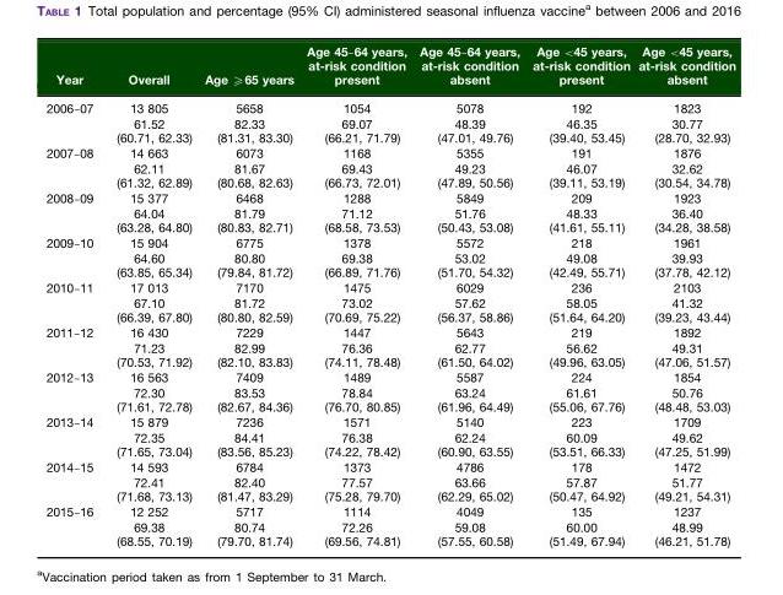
<table><thead><tr><td>Year</td><td>Overall</td><td>Age ≥65 years</td><td>Age 45–64 years, at-risk condition present</td><td>Age 45–64 years, at-risk condition absent</td><td>Age &lt;45 years, at-risk condition present</td><td>Age &lt;45 years, at-risk condition absent</td></tr></thead><tbody><tr><td rowspan="2">2006–07</td><td>13 805</td><td>5658</td><td>1054</td><td>5078</td><td>192</td><td>1823</td></tr><tr><td>61.52 (60.71, 62.33)</td><td>82.33 (81.31, 83.30)</td><td>69.07 (66.21, 71.79)</td><td>48.39 (47.01, 49.76)</td><td>46.35 (39.40, 53.45)</td><td>30.77 (28.70, 32.93)</td></tr><tr><td rowspan="2">2007–08</td><td>14 663</td><td>6073</td><td>1168</td><td>5355</td><td>191</td><td>1876</td></tr><tr><td>62.11 (61.32, 62.89)</td><td>81.67 (80.68, 82.63)</td><td>69.43 (66.73, 72.01)</td><td>49.23 (47.89, 50.56)</td><td>46.07 (39.11, 53.19)</td><td>32.62 (30.54, 34.78)</td></tr><tr><td rowspan="2">2008–09</td><td>15 377</td><td>6468</td><td>1288</td><td>5849</td><td>209</td><td>1923</td></tr><tr><td>64.04 (63.28, 64.80)</td><td>81.79 (80.83, 82.71)</td><td>71.12 (68.58, 73.53)</td><td>51.76 (50.43, 53.08)</td><td>48.33 (41.61, 55.11)</td><td>36.40 (34.28, 38.58)</td></tr><tr><td rowspan="2">2009–10</td><td>15 904</td><td>6775</td><td>1378</td><td>5572</td><td>218</td><td>1961</td></tr><tr><td>64.60 (63.85, 65.34)</td><td>80.80 (79.84, 81.72)</td><td>69.38 (66.89, 71.76)</td><td>53.02 (51.70, 54.32)</td><td>49.08 (42.49, 55.71)</td><td>39.93 (37.78, 42.12)</td></tr><tr><td rowspan="2">2010–11</td><td>17 013</td><td>7170</td><td>1475</td><td>6029</td><td>236</td><td>2103</td></tr><tr><td>67.10 (66.39, 67.80)</td><td>81.72 (80.80, 82.59)</td><td>73.02 (70.69, 75.22)</td><td>57.62 (56.37, 58.86)</td><td>58.05 (51.64, 64.20)</td><td>41.32 (39.23, 43.44)</td></tr><tr><td rowspan="2">2011–12</td><td>16 430</td><td>7229</td><td>1447</td><td>5643</td><td>219</td><td>1892</td></tr><tr><td>71.23 (70.53, 71.92)</td><td>82.99 (82.10, 83.83)</td><td>76.36 (74.11, 78.48)</td><td>62.77 (61.50, 64.02)</td><td>56.62 (49.96, 63.05)</td><td>49.31 (47.06, 51.57)</td></tr><tr><td rowspan="2">2012–13</td><td>16 563</td><td>7409</td><td>1489</td><td>5587</td><td>224</td><td>1854</td></tr><tr><td>72.30 (71.61, 72.78)</td><td>83.53 (82.67, 84.36)</td><td>78.84 (76.70, 80.85)</td><td>63.24 (61.96, 64.49)</td><td>61.61 (55.06, 67.76)</td><td>50.76 (48.48, 53.03)</td></tr><tr><td rowspan="2">2013–14</td><td>15 879</td><td>7236</td><td>1571</td><td>5140</td><td>223</td><td>1709</td></tr><tr><td>72.35 (71.65, 73.04)</td><td>84.41 (83.56, 85.23)</td><td>76.38 (74.22, 78.42)</td><td>62.24 (60.90, 63.55)</td><td>60.09 (53.51, 66.33)</td><td>49.62 (47.25, 51.99)</td></tr><tr><td rowspan="2">2014–15</td><td>14 593</td><td>6784</td><td>1373</td><td>4786</td><td>178</td><td>1472</td></tr><tr><td>72.41 (71.68, 73.13)</td><td>82.40 (81.47, 83.29)</td><td>77.57 (75.28, 79.70)</td><td>63.66 (62.29, 65.02)</td><td>57.87 (50.47, 64.92)</td><td>51.77 (49.21, 54.31)</td></tr><tr><td rowspan="2">2015–16</td><td>12 252</td><td>5717</td><td>1114</td><td>4049</td><td>135</td><td>1237</td></tr><tr><td>69.38 (68.55, 70.19)</td><td>80.74 (79.70, 81.74)</td><td>72.26 (69.56, 74.81)</td><td>59.08 (57.55, 60.58)</td><td>60.00 (51.49, 67.94)</td><td>48.99 (46.21, 51.78)</td></tr></tbody></table>